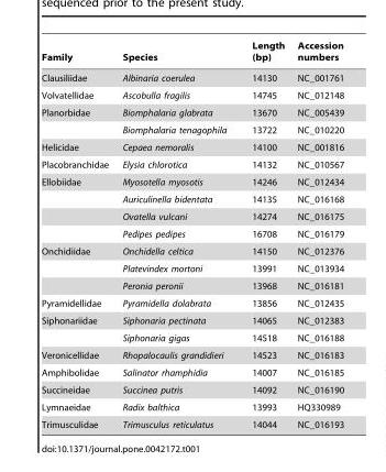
<table><thead><tr><td>Family</td><td>Species</td><td>Length (bp)</td><td>Accession numbers</td></tr></thead><tbody><tr><td>Clausiliidae</td><td>Albinaria coerulea</td><td>14130</td><td>NC_001761</td></tr><tr><td>Volvatellidae</td><td>Ascobulla fragilis</td><td>14745</td><td>NC_012148</td></tr><tr><td rowspan="2">Planorbidae</td><td>Biomphalaria glabrata</td><td>13670</td><td>NC_005439</td></tr><tr><td>Biomphalaria tenagophila</td><td>13722</td><td>NC_010220</td></tr><tr><td>Helicidae</td><td>Cepaea nemoralis</td><td>14100</td><td>NC_001816</td></tr><tr><td>Placobranchidae</td><td>Elysia chlorotica</td><td>14132</td><td>NC_010567</td></tr><tr><td rowspan="4">Ellobiidae</td><td>Myosotella myosotis</td><td>14246</td><td>NC_012434</td></tr><tr><td>Auriculinella bidentata</td><td>14135</td><td>NC_016168</td></tr><tr><td>Ovatella vulcani</td><td>14274</td><td>NC_016175</td></tr><tr><td>Pedipes pedipes</td><td>16708</td><td>NC_016179</td></tr><tr><td rowspan="3">Onchidiidae</td><td>Onchidella celtica</td><td>14150</td><td>NC_012376</td></tr><tr><td>Platevindex mortoni</td><td>13991</td><td>NC_013934</td></tr><tr><td>Peronia peronii</td><td>13968</td><td>NC_016181</td></tr><tr><td>Pyramidellidae</td><td>Pyramidella dolabrata</td><td>13856</td><td>NC_012435</td></tr><tr><td rowspan="2">Siphonariidae</td><td>Siphonaria pectinata</td><td>14065</td><td>NC_012383</td></tr><tr><td>Siphonaria gigas</td><td>14518</td><td>NC_016188</td></tr><tr><td>Veronicellidae</td><td>Rhopalocaulis grandidieri</td><td>14523</td><td>NC_016183</td></tr><tr><td>Amphibolidae</td><td>Salinator rhamphidia</td><td>14007</td><td>NC_016185</td></tr><tr><td>Succineidae</td><td>Succinea putris</td><td>14092</td><td>NC_016190</td></tr><tr><td>Lymnaeidae</td><td>Radix balthica</td><td>13993</td><td>HQ330989</td></tr><tr><td>Trimusculidae</td><td>Trimusculus reticulatus</td><td>14044</td><td>NC_016193</td></tr></tbody></table>